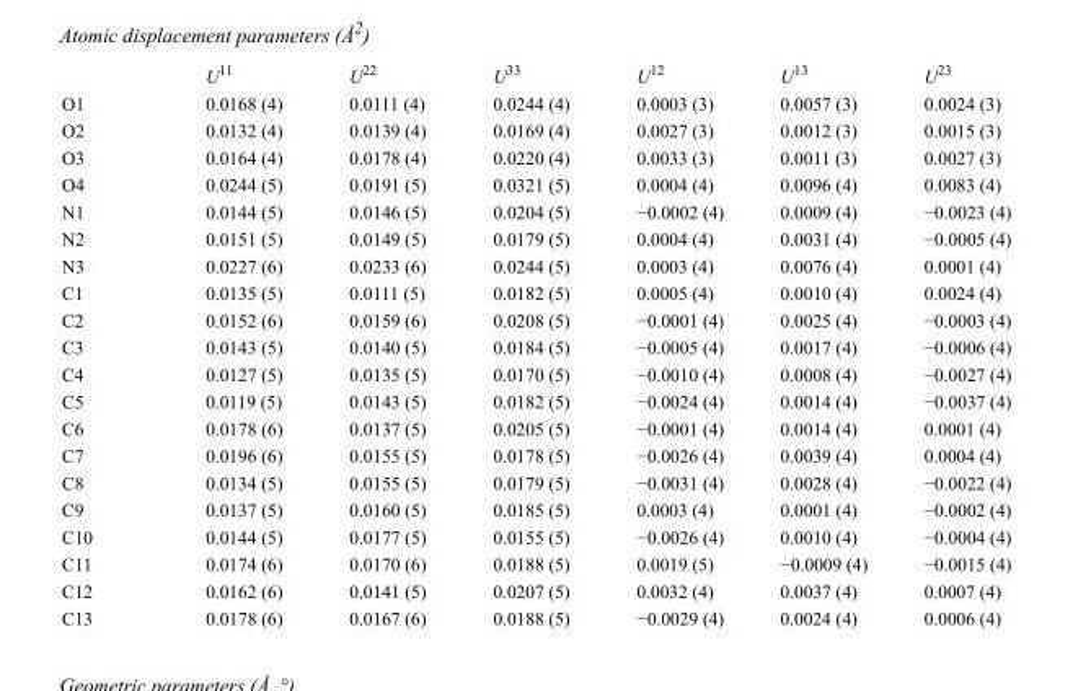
<table><thead><tr><td></td><td>U<sup>11</sup></td><td>U<sup>22</sup></td><td>U<sup>33</sup></td><td>U<sup>12</sup></td><td>U<sup>13</sup></td><td>U<sup>23</sup></td></tr></thead><tbody><tr><td>O1</td><td>0.0168 (4)</td><td>0.0111 (4)</td><td>0.0244 (4)</td><td>0.0003 (3)</td><td>0.0057 (3)</td><td>0.0024 (3)</td></tr><tr><td>O2</td><td>0.0132 (4)</td><td>0.0139 (4)</td><td>0.0169 (4)</td><td>0.0027 (3)</td><td>0.0012 (3)</td><td>0.0015 (3)</td></tr><tr><td>O3</td><td>0.0164 (4)</td><td>0.0178 (4)</td><td>0.0220 (4)</td><td>0.0033 (3)</td><td>0.0011 (3)</td><td>0.0027 (3)</td></tr><tr><td>O4</td><td>0.0244 (5)</td><td>0.0191 (5)</td><td>0.0321 (5)</td><td>0.0004 (4)</td><td>0.0096 (4)</td><td>0.0083 (4)</td></tr><tr><td>N1</td><td>0.0144 (5)</td><td>0.0146 (5)</td><td>0.0204 (5)</td><td>−0.0002 (4)</td><td>0.0009 (4)</td><td>−0.0023 (4)</td></tr><tr><td>N2</td><td>0.0151 (5)</td><td>0.0149 (5)</td><td>0.0179 (5)</td><td>0.0004 (4)</td><td>0.0031 (4)</td><td>−0.0005 (4)</td></tr><tr><td>N3</td><td>0.0227 (6)</td><td>0.0233 (6)</td><td>0.0244 (5)</td><td>0.0003 (4)</td><td>0.0076 (4)</td><td>0.0001 (4)</td></tr><tr><td>C1</td><td>0.0135 (5)</td><td>0.0111 (5)</td><td>0.0182 (5)</td><td>0.0005 (4)</td><td>0.0010 (4)</td><td>0.0024 (4)</td></tr><tr><td>C2</td><td>0.0152 (6)</td><td>0.0159 (6)</td><td>0.0208 (5)</td><td>−0.0001 (4)</td><td>0.0025 (4)</td><td>−0.0003 (4)</td></tr><tr><td>C3</td><td>0.0143 (5)</td><td>0.0140 (5)</td><td>0.0184 (5)</td><td>−0.0005 (4)</td><td>0.0017 (4)</td><td>−0.0006 (4)</td></tr><tr><td>C4</td><td>0.0127 (5)</td><td>0.0135 (5)</td><td>0.0170 (5)</td><td>−0.0010 (4)</td><td>0.0008 (4)</td><td>−0.0027 (4)</td></tr><tr><td>C5</td><td>0.0119 (5)</td><td>0.0143 (5)</td><td>0.0182 (5)</td><td>−0.0024 (4)</td><td>0.0014 (4)</td><td>−0.0037 (4)</td></tr><tr><td>C6</td><td>0.0178 (6)</td><td>0.0137 (5)</td><td>0.0205 (5)</td><td>−0.0001 (4)</td><td>0.0014 (4)</td><td>0.0001 (4)</td></tr><tr><td>C7</td><td>0.0196 (6)</td><td>0.0155 (5)</td><td>0.0178 (5)</td><td>−0.0026 (4)</td><td>0.0039 (4)</td><td>0.0004 (4)</td></tr><tr><td>C8</td><td>0.0134 (5)</td><td>0.0155 (5)</td><td>0.0179 (5)</td><td>−0.0031 (4)</td><td>0.0028 (4)</td><td>−0.0022 (4)</td></tr><tr><td>C9</td><td>0.0137 (5)</td><td>0.0160 (5)</td><td>0.0185 (5)</td><td>0.0003 (4)</td><td>0.0001 (4)</td><td>−0.0002 (4)</td></tr><tr><td>C10</td><td>0.0144 (5)</td><td>0.0177 (5)</td><td>0.0155 (5)</td><td>−0.0026 (4)</td><td>0.0010 (4)</td><td>−0.0004 (4)</td></tr><tr><td>C11</td><td>0.0174 (6)</td><td>0.0170 (6)</td><td>0.0188 (5)</td><td>0.0019 (5)</td><td>−0.0009 (4)</td><td>−0.0015 (4)</td></tr><tr><td>C12</td><td>0.0162 (6)</td><td>0.0141 (5)</td><td>0.0207 (5)</td><td>0.0032 (4)</td><td>0.0037 (4)</td><td>0.0007 (4)</td></tr><tr><td>C13</td><td>0.0178 (6)</td><td>0.0167 (6)</td><td>0.0188 (5)</td><td>−0.0029 (4)</td><td>0.0024 (4)</td><td>0.0006 (4)</td></tr></tbody></table>